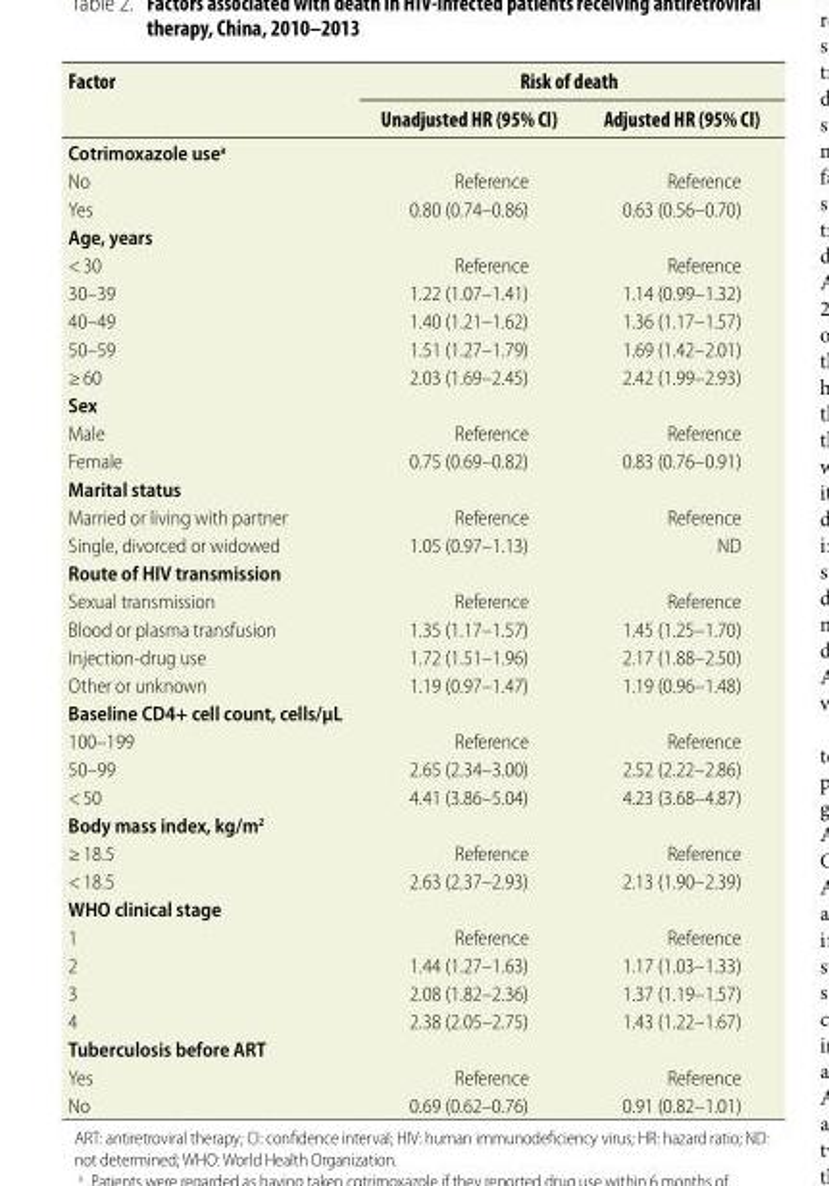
<table><thead><tr><td rowspan="2">Factor</td><td colspan="2">Risk of death</td></tr><tr><td>Unadjusted HR (95% CI)</td><td>Adjusted HR (95% CI)</td></tr></thead><tbody><tr><td colspan="3">Cotrimoxazole use<sup>a</sup></td></tr><tr><td>No</td><td>Reference</td><td>Reference</td></tr><tr><td>Yes</td><td>0.80 (0.74–0.86)</td><td>0.63 (0.56–0.70)</td></tr><tr><td colspan="3">Age, years</td></tr><tr><td>&lt; 30</td><td>Reference</td><td>Reference</td></tr><tr><td>30–39</td><td>1.22 (1.07–1.41)</td><td>1.14 (0.99–1.32)</td></tr><tr><td>40–49</td><td>1.40 (1.21–1.62)</td><td>1.36 (1.17–1.57)</td></tr><tr><td>50–59</td><td>1.51 (1.27–1.79)</td><td>1.69 (1.42–2.01)</td></tr><tr><td>≥ 60</td><td>2.03 (1.69–2.45)</td><td>2.42 (1.99–2.93)</td></tr><tr><td colspan="3">Sex</td></tr><tr><td>Male</td><td>Reference</td><td>Reference</td></tr><tr><td>Female</td><td>0.75 (0.69–0.82)</td><td>0.83 (0.76–0.91)</td></tr><tr><td colspan="3">Marital status</td></tr><tr><td>Married or living with partner</td><td>Reference</td><td>Reference</td></tr><tr><td>Single, divorced or widowed</td><td>1.05 (0.97–1.13)</td><td>ND</td></tr><tr><td colspan="3">Route of HIV transmission</td></tr><tr><td>Sexual transmission</td><td>Reference</td><td>Reference</td></tr><tr><td>Blood or plasma transfusion</td><td>1.35 (1.17–1.57)</td><td>1.45 (1.25–1.70)</td></tr><tr><td>Injection-drug use</td><td>1.72 (1.51–1.96)</td><td>2.17 (1.88–2.50)</td></tr><tr><td>Other or unknown</td><td>1.19 (0.97–1.47)</td><td>1.19 (0.96–1.48)</td></tr><tr><td colspan="3">Baseline CD4+ cell count, cells/µL</td></tr><tr><td>100–199</td><td>Reference</td><td>Reference</td></tr><tr><td>50–99</td><td>2.65 (2.34–3.00)</td><td>2.52 (2.22–2.86)</td></tr><tr><td>&lt; 50</td><td>4.41 (3.86–5.04)</td><td>4.23 (3.68–4.87)</td></tr><tr><td colspan="3">Body mass index, kg/m<sup>2</sup></td></tr><tr><td>≥ 18.5</td><td>Reference</td><td>Reference</td></tr><tr><td>&lt; 18.5</td><td>2.63 (2.37–2.93)</td><td>2.13 (1.90–2.39)</td></tr><tr><td colspan="3">WHO clinical stage</td></tr><tr><td>1</td><td>Reference</td><td>Reference</td></tr><tr><td>2</td><td>1.44 (1.27–1.63)</td><td>1.17 (1.03–1.33)</td></tr><tr><td>3</td><td>2.08 (1.82–2.36)</td><td>1.37 (1.19–1.57)</td></tr><tr><td>4</td><td>2.38 (2.05–2.75)</td><td>1.43 (1.22–1.67)</td></tr><tr><td colspan="3">Tuberculosis before ART</td></tr><tr><td>Yes</td><td>Reference</td><td>Reference</td></tr><tr><td>No</td><td>0.69 (0.62–0.76)</td><td>0.91 (0.82–1.01)</td></tr></tbody></table>